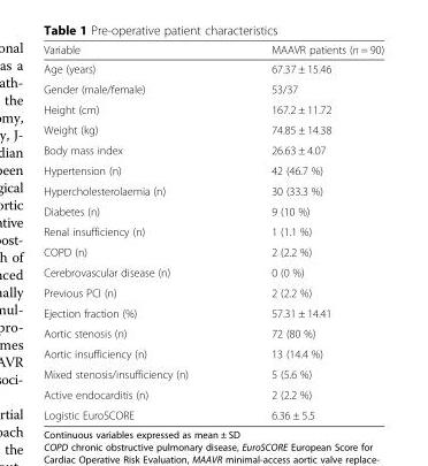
<table><thead><tr><td>Variable</td><td>MAAVR patients (n = 90)</td></tr></thead><tbody><tr><td>Age (years)</td><td>67.37 ± 15.46</td></tr><tr><td>Gender (male/female)</td><td>53/37</td></tr><tr><td>Height (cm)</td><td>167.2 ± 11.72</td></tr><tr><td>Weight (kg)</td><td>74.85 ± 14.38</td></tr><tr><td>Body mass index</td><td>26.63 ± 4.07</td></tr><tr><td>Hypertension (n)</td><td>42 (46.7 %)</td></tr><tr><td>Hypercholesterolaemia (n)</td><td>30 (33.3 %)</td></tr><tr><td>Diabetes (n)</td><td>9 (10 %)</td></tr><tr><td>Renal insufficiency (n)</td><td>1 (1.1 %)</td></tr><tr><td>COPD (n)</td><td>2 (2.2 %)</td></tr><tr><td>Cerebrovascular disease (n)</td><td>0 (0 %)</td></tr><tr><td>Previous PCI (n)</td><td>2 (2.2 %)</td></tr><tr><td>Ejection fraction (%)</td><td>57.31 ± 14.41</td></tr><tr><td>Aortic stenosis (n)</td><td>72 (80 %)</td></tr><tr><td>Aortic insufficiency (n)</td><td>13 (14.4 %)</td></tr><tr><td>Mixed stenosis/insufficiency (n)</td><td>5 (5.6 %)</td></tr><tr><td>Active endocarditis (n)</td><td>2 (2.2 %)</td></tr><tr><td>Logistic EuroSCORE</td><td>6.36 ± 5.5</td></tr></tbody></table>